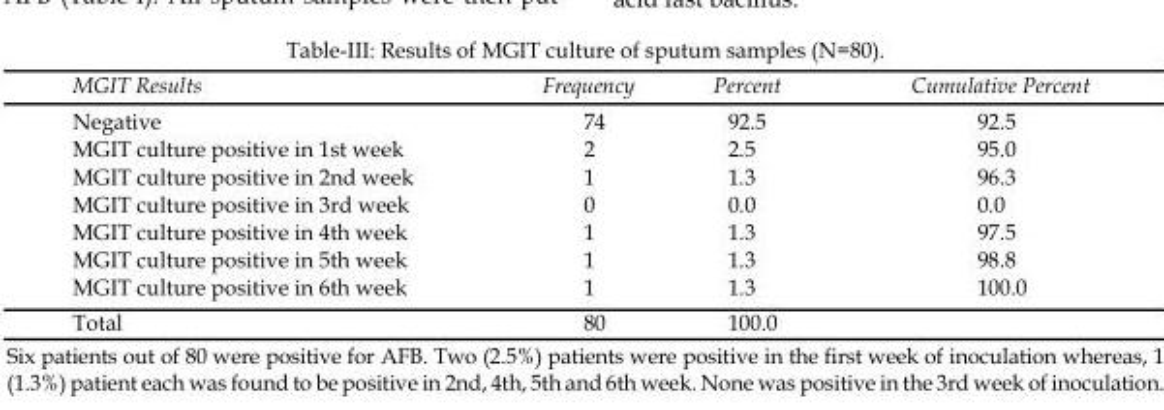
<table><thead><tr><td>MGIT Results</td><td>Frequency</td><td>Percent</td><td>Cumulative Percent</td></tr></thead><tbody><tr><td>Negative</td><td>74</td><td>92.5</td><td>92.5</td></tr><tr><td>MGIT culture positive in 1<sup>st</sup> week</td><td>2</td><td>2.5</td><td>95.0</td></tr><tr><td>MGIT culture positive in 2<sup>nd</sup> week</td><td>1</td><td>1.3</td><td>96.3</td></tr><tr><td>MGIT culture positive in 3<sup>rd</sup> week</td><td>0</td><td>0.0</td><td>0.0</td></tr><tr><td>MGIT culture positive in 4<sup>th</sup> week</td><td>1</td><td>1.3</td><td>97.5</td></tr><tr><td>MGIT culture positive in 5<sup>th</sup> week</td><td>1</td><td>1.3</td><td>98.8</td></tr><tr><td>MGIT culture positive in 6<sup>th</sup> week</td><td>1</td><td>1.3</td><td>100.0</td></tr><tr><td>Total</td><td>80</td><td>100.0</td><td></td></tr></tbody></table>